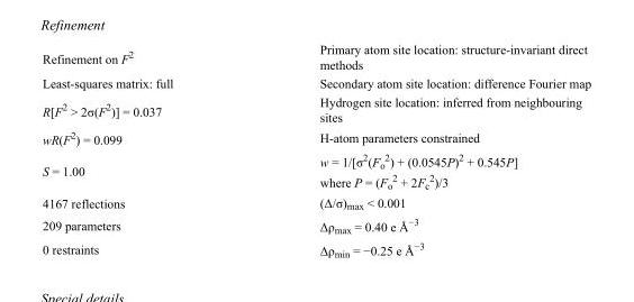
<table><tbody><tr><td>Refinement on F<sup>2</sup></td><td>Primary atom site location: structure-invariant direct methods</td></tr><tr><td>Least-squares matrix: full</td><td>Secondary atom site location: difference Fourier map</td></tr><tr><td>R[F<sup>2</sup> &gt; 2σ(F<sup>2</sup>)] = 0.037</td><td>Hydrogen site location: inferred from neighbouring sites</td></tr><tr><td>wR(F<sup>2</sup>) = 0.099</td><td>H-atom parameters constrained</td></tr><tr><td>S = 1.00</td><td>w = 1/[σ<sup>2</sup>(F<sub>o</sub> <sup>2</sup>) + (0.0545P)<sup>2</sup> + 0.545P] where P = (F<sub>o</sub> <sup>2</sup> + 2F<sub>c</sub> <sup>2</sup>)/3</td></tr><tr><td>4167 reflections</td><td>(Δ/σ)<sub>max</sub> &lt; 0.001</td></tr><tr><td>209 parameters</td><td>Δρ<sub>max</sub> = 0.40 e Å<sup>−3</sup></td></tr><tr><td>0 restraints</td><td>Δρ<sub>min</sub> = −0.25 e Å<sup>−3</sup></td></tr></tbody></table>